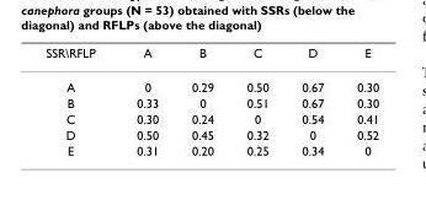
<table><thead><tr><td>SSR\RFLP</td><td>A</td><td>B</td><td>C</td><td>D</td><td>E</td></tr></thead><tbody><tr><td>A</td><td>0</td><td>0.29</td><td>0.50</td><td>0.67</td><td>0.30</td></tr><tr><td>B</td><td>0.33</td><td>0</td><td>0.51</td><td>0.67</td><td>0.30</td></tr><tr><td>C</td><td>0.30</td><td>0.24</td><td>0</td><td>0.54</td><td>0.41</td></tr><tr><td>D</td><td>0.50</td><td>0.45</td><td>0.32</td><td>0</td><td>0.52</td></tr><tr><td>E</td><td>0.31</td><td>0.20</td><td>0.25</td><td>0.34</td><td>0</td></tr></tbody></table>